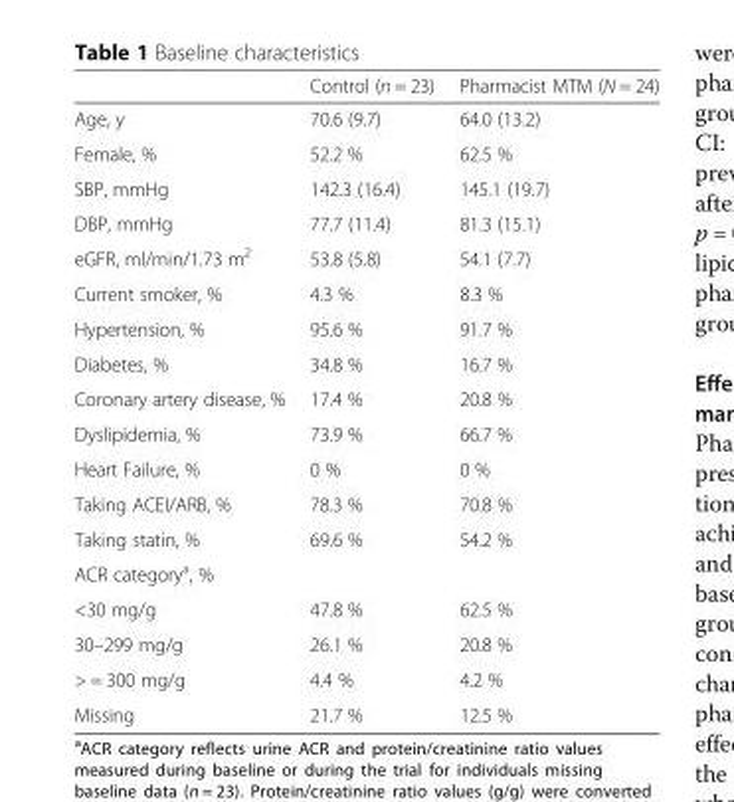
<table><thead><tr><td></td><td>Control (n = 23)</td><td>Pharmacist MTM (N = 24)</td></tr></thead><tbody><tr><td>Age, y</td><td>70.6 (9.7)</td><td>64.0 (13.2)</td></tr><tr><td>Female, %</td><td>52.2 %</td><td>62.5 %</td></tr><tr><td>SBP, mmHg</td><td>142.3 (16.4)</td><td>145.1 (19.7)</td></tr><tr><td>DBP, mmHg</td><td>77.7 (11.4)</td><td>81.3 (15.1)</td></tr><tr><td>eGFR, ml/min/1.73 m<sup>2</sup></td><td>53.8 (5.8)</td><td>54.1 (7.7)</td></tr><tr><td>Current smoker, %</td><td>4.3 %</td><td>8.3 %</td></tr><tr><td>Hypertension, %</td><td>95.6 %</td><td>91.7 %</td></tr><tr><td>Diabetes, %</td><td>34.8 %</td><td>16.7 %</td></tr><tr><td>Coronary artery disease, %</td><td>17.4 %</td><td>20.8 %</td></tr><tr><td>Dyslipidemia, %</td><td>73.9 %</td><td>66.7 %</td></tr><tr><td>Heart Failure, %</td><td>0 %</td><td>0 %</td></tr><tr><td>Taking ACEI/ARB, %</td><td>78.3 %</td><td>70.8 %</td></tr><tr><td>Taking statin, %</td><td>69.6 %</td><td>54.2 %</td></tr><tr><td colspan="3">ACR category<sup>a</sup>, %</td></tr><tr><td>&lt;30 mg/g</td><td>47.8 %</td><td>62.5 %</td></tr><tr><td>30–299 mg/g</td><td>26.1 %</td><td>20.8 %</td></tr><tr><td>&gt; = 300 mg/g</td><td>4.4 %</td><td>4.2 %</td></tr><tr><td>Missing</td><td>21.7 %</td><td>12.5 %</td></tr></tbody></table>